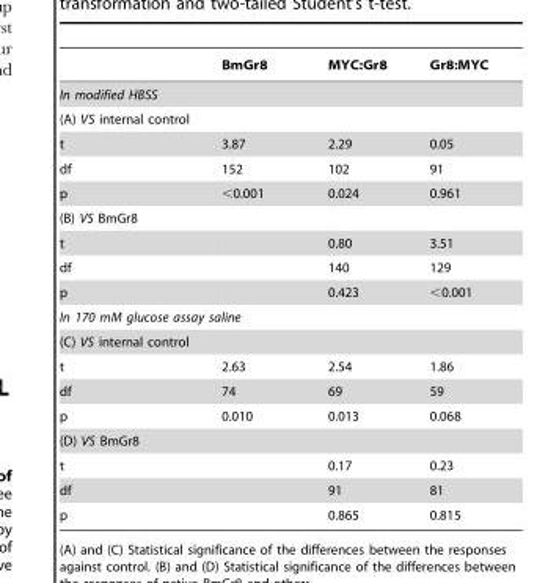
<table><thead><tr><td></td><td>BmGr8</td><td>MYC:Gr8</td><td>Gr8:MYC</td></tr></thead><tbody><tr><td colspan="4">In modified HBSS</td></tr><tr><td colspan="4">(A) VS internal control</td></tr><tr><td>t</td><td>3.87</td><td>2.29</td><td>0.05</td></tr><tr><td>df</td><td>152</td><td>102</td><td>91</td></tr><tr><td>p</td><td>&lt;0.001</td><td>0.024</td><td>0.961</td></tr><tr><td colspan="4">(B) VS BmGr8</td></tr><tr><td>t</td><td></td><td>0.80</td><td>3.51</td></tr><tr><td>df</td><td></td><td>140</td><td>129</td></tr><tr><td>p</td><td></td><td>0.423</td><td>&lt;0.001</td></tr><tr><td colspan="4">In 170 mM glucose assay saline</td></tr><tr><td colspan="4">(C) VS internal control</td></tr><tr><td>t</td><td>2.63</td><td>2.54</td><td>1.86</td></tr><tr><td>df</td><td>74</td><td>69</td><td>59</td></tr><tr><td>p</td><td>0.010</td><td>0.013</td><td>0.068</td></tr><tr><td colspan="4">(D) VS BmGr8</td></tr><tr><td>t</td><td></td><td>0.17</td><td>0.23</td></tr><tr><td>df</td><td></td><td>91</td><td>81</td></tr><tr><td>p</td><td></td><td>0.865</td><td>0.815</td></tr></tbody></table>